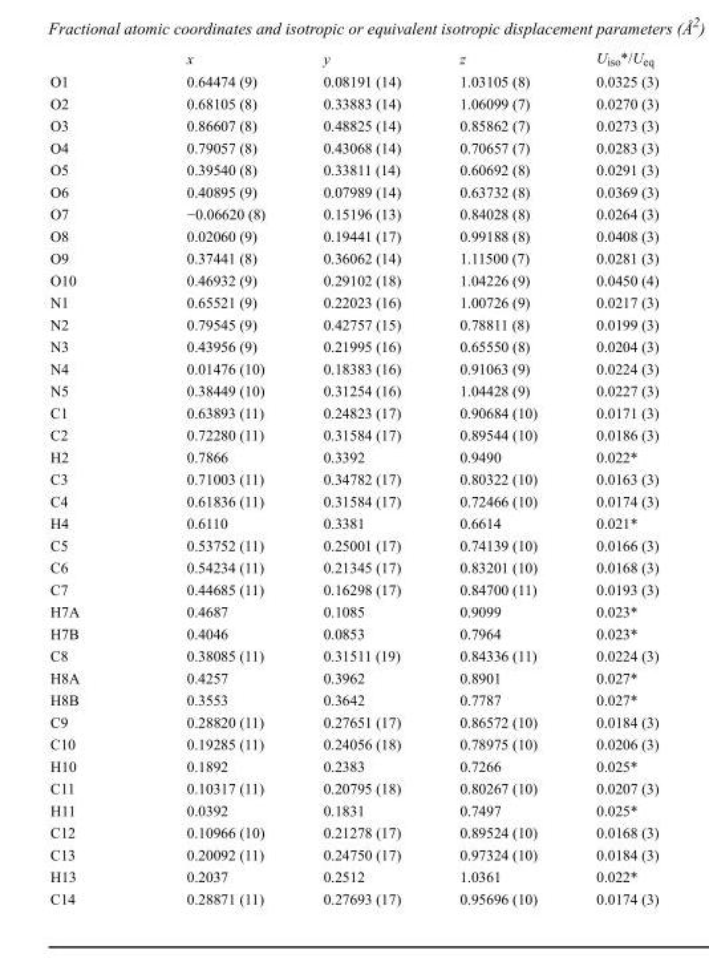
<table><thead><tr><td></td><td>x</td><td>y</td><td>z</td><td>U<sub>iso</sub>*/U<sub>eq</sub></td></tr></thead><tbody><tr><td>O1</td><td>0.64474 (9)</td><td>0.08191 (14)</td><td>1.03105 (8)</td><td>0.0325 (3)</td></tr><tr><td>O2</td><td>0.68105 (8)</td><td>0.33883 (14)</td><td>1.06099 (7)</td><td>0.0270 (3)</td></tr><tr><td>O3</td><td>0.86607 (8)</td><td>0.48825 (14)</td><td>0.85862 (7)</td><td>0.0273 (3)</td></tr><tr><td>O4</td><td>0.79057 (8)</td><td>0.43068 (14)</td><td>0.70657 (7)</td><td>0.0283 (3)</td></tr><tr><td>O5</td><td>0.39540 (8)</td><td>0.33811 (14)</td><td>0.60692 (8)</td><td>0.0291 (3)</td></tr><tr><td>O6</td><td>0.40895 (9)</td><td>0.07989 (14)</td><td>0.63732 (8)</td><td>0.0369 (3)</td></tr><tr><td>O7</td><td>−0.06620 (8)</td><td>0.15196 (13)</td><td>0.84028 (8)</td><td>0.0264 (3)</td></tr><tr><td>O8</td><td>0.02060 (9)</td><td>0.19441 (17)</td><td>0.99188 (8)</td><td>0.0408 (3)</td></tr><tr><td>O9</td><td>0.37441 (8)</td><td>0.36062 (14)</td><td>1.11500 (7)</td><td>0.0281 (3)</td></tr><tr><td>O10</td><td>0.46932 (9)</td><td>0.29102 (18)</td><td>1.04226 (9)</td><td>0.0450 (4)</td></tr><tr><td>N1</td><td>0.65521 (9)</td><td>0.22023 (16)</td><td>1.00726 (9)</td><td>0.0217 (3)</td></tr><tr><td>N2</td><td>0.79545 (9)</td><td>0.42757 (15)</td><td>0.78811 (8)</td><td>0.0199 (3)</td></tr><tr><td>N3</td><td>0.43956 (9)</td><td>0.21995 (16)</td><td>0.65550 (8)</td><td>0.0204 (3)</td></tr><tr><td>N4</td><td>0.01476 (10)</td><td>0.18383 (16)</td><td>0.91063 (9)</td><td>0.0224 (3)</td></tr><tr><td>N5</td><td>0.38449 (10)</td><td>0.31254 (16)</td><td>1.04428 (9)</td><td>0.0227 (3)</td></tr><tr><td>C1</td><td>0.63893 (11)</td><td>0.24823 (17)</td><td>0.90684 (10)</td><td>0.0171 (3)</td></tr><tr><td>C2</td><td>0.72280 (11)</td><td>0.31584 (17)</td><td>0.89544 (10)</td><td>0.0186 (3)</td></tr><tr><td>H2</td><td>0.7866</td><td>0.3392</td><td>0.9490</td><td>0.022*</td></tr><tr><td>C3</td><td>0.71003 (11)</td><td>0.34782 (17)</td><td>0.80322 (10)</td><td>0.0163 (3)</td></tr><tr><td>C4</td><td>0.61836 (11)</td><td>0.31584 (17)</td><td>0.72466 (10)</td><td>0.0174 (3)</td></tr><tr><td>H4</td><td>0.6110</td><td>0.3381</td><td>0.6614</td><td>0.021*</td></tr><tr><td>C5</td><td>0.53752 (11)</td><td>0.25001 (17)</td><td>0.74139 (10)</td><td>0.0166 (3)</td></tr><tr><td>C6</td><td>0.54234 (11)</td><td>0.21345 (17)</td><td>0.83201 (10)</td><td>0.0168 (3)</td></tr><tr><td>C7</td><td>0.44685 (11)</td><td>0.16298 (17)</td><td>0.84700 (11)</td><td>0.0193 (3)</td></tr><tr><td>H7A</td><td>0.4687</td><td>0.1085</td><td>0.9099</td><td>0.023*</td></tr><tr><td>H7B</td><td>0.4046</td><td>0.0853</td><td>0.7964</td><td>0.023*</td></tr><tr><td>C8</td><td>0.38085 (11)</td><td>0.31511 (19)</td><td>0.84336 (11)</td><td>0.0224 (3)</td></tr><tr><td>H8A</td><td>0.4257</td><td>0.3962</td><td>0.8901</td><td>0.027*</td></tr><tr><td>H8B</td><td>0.3553</td><td>0.3642</td><td>0.7787</td><td>0.027*</td></tr><tr><td>C9</td><td>0.28820 (11)</td><td>0.27651 (17)</td><td>0.86572 (10)</td><td>0.0184 (3)</td></tr><tr><td>C10</td><td>0.19285 (11)</td><td>0.24056 (18)</td><td>0.78975 (10)</td><td>0.0206 (3)</td></tr><tr><td>H10</td><td>0.1892</td><td>0.2383</td><td>0.7266</td><td>0.025*</td></tr><tr><td>C11</td><td>0.10317 (11)</td><td>0.20795 (18)</td><td>0.80267 (10)</td><td>0.0207 (3)</td></tr><tr><td>H11</td><td>0.0392</td><td>0.1831</td><td>0.7497</td><td>0.025*</td></tr><tr><td>C12</td><td>0.10966 (10)</td><td>0.21278 (17)</td><td>0.89524 (10)</td><td>0.0168 (3)</td></tr><tr><td>C13</td><td>0.20092 (11)</td><td>0.24750 (17)</td><td>0.97324 (10)</td><td>0.0184 (3)</td></tr><tr><td>H13</td><td>0.2037</td><td>0.2512</td><td>1.0361</td><td>0.022*</td></tr><tr><td>C14</td><td>0.28871 (11)</td><td>0.27693 (17)</td><td>0.95696 (10)</td><td>0.0174 (3)</td></tr></tbody></table>